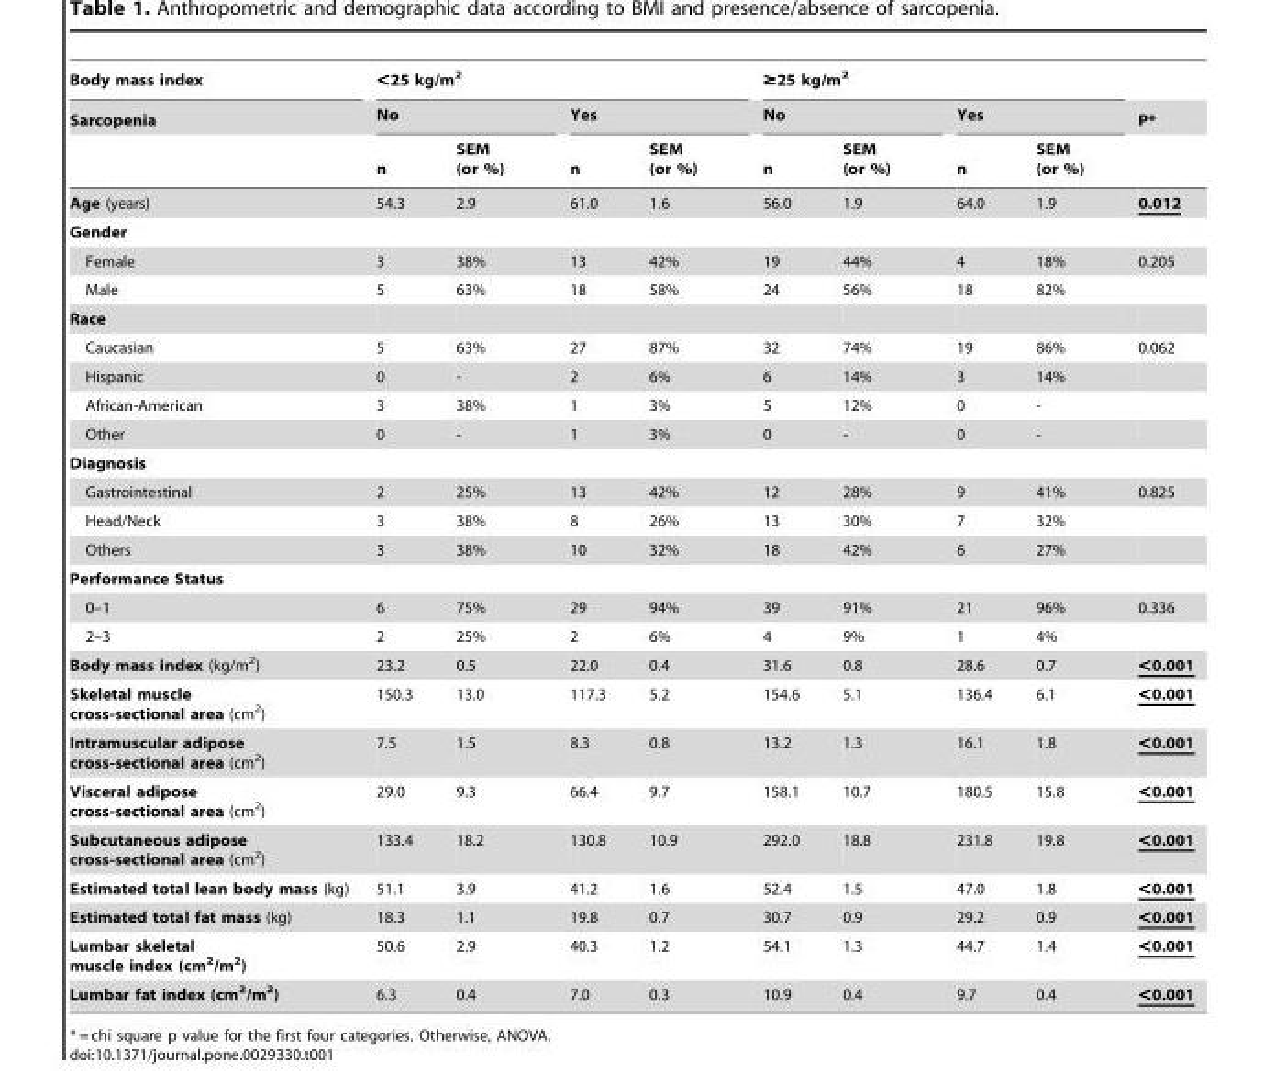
<table><thead><tr><td rowspan="3">Body mass index Sarcopenia</td><td colspan="4">&lt;25 kg/m<sup>2</sup></td><td colspan="4">≥25 kg/m<sup>2</sup></td><td rowspan="3">P*</td></tr><tr><td colspan="2">No</td><td colspan="2">Yes</td><td colspan="2">No</td><td colspan="2">Yes</td></tr><tr><td>n</td><td>SEM (or %)</td><td>n</td><td>SEM (or %)</td><td>n</td><td>SEM (or %)</td><td>n</td><td>SEM (or %)</td></tr></thead><tbody><tr><td>Age (years)</td><td>54.3</td><td>2.9</td><td>61.0</td><td>1.6</td><td>56.0</td><td>1.9</td><td>64.0</td><td>1.9</td><td>0.012</td></tr><tr><td colspan="10">Gender</td></tr><tr><td>Female</td><td>3</td><td>38%</td><td>13</td><td>42%</td><td>19</td><td>44%</td><td>4</td><td>18%</td><td>0.205</td></tr><tr><td>Male</td><td>5</td><td>63%</td><td>18</td><td>58%</td><td>24</td><td>56%</td><td>18</td><td>82%</td><td></td></tr><tr><td colspan="10">Race</td></tr><tr><td>Caucasian</td><td>5</td><td>63%</td><td>27</td><td>87%</td><td>32</td><td>74%</td><td>19</td><td>86%</td><td>0.062</td></tr><tr><td>Hispanic</td><td>0</td><td>-</td><td>2</td><td>6%</td><td>6</td><td>14%</td><td>3</td><td>14%</td><td></td></tr><tr><td>African-American</td><td>3</td><td>38%</td><td>1</td><td>3%</td><td>5</td><td>12%</td><td>0</td><td>-</td><td></td></tr><tr><td>Other</td><td>0</td><td>-</td><td>1</td><td>3%</td><td>0</td><td>-</td><td>0</td><td>-</td><td></td></tr><tr><td colspan="10">Diagnosis</td></tr><tr><td>Gastrointestinal</td><td>2</td><td>25%</td><td>13</td><td>42%</td><td>12</td><td>28%</td><td>9</td><td>41%</td><td>0.825</td></tr><tr><td>Head/Neck</td><td>3</td><td>38%</td><td>8</td><td>26%</td><td>13</td><td>30%</td><td>7</td><td>32%</td><td></td></tr><tr><td>Others</td><td>3</td><td>38%</td><td>10</td><td>32%</td><td>18</td><td>42%</td><td>6</td><td>27%</td><td></td></tr><tr><td colspan="10">Performance Status</td></tr><tr><td>0–1</td><td>6</td><td>75%</td><td>29</td><td>94%</td><td>39</td><td>91%</td><td>21</td><td>96%</td><td>0.336</td></tr><tr><td>2–3</td><td>2</td><td>25%</td><td>2</td><td>6%</td><td>4</td><td>9%</td><td>1</td><td>4%</td><td></td></tr><tr><td>Body mass index (kg/m<sup>2</sup>)</td><td>23.2</td><td>0.5</td><td>22.0</td><td>0.4</td><td>31.6</td><td>0.8</td><td>28.6</td><td>0.7</td><td>&lt;0.001</td></tr><tr><td>Skeletal muscle cross-sectional area (cm<sup>2</sup>)</td><td>150.3</td><td>13.0</td><td>117.3</td><td>5.2</td><td>154.6</td><td>5.1</td><td>136.4</td><td>6.1</td><td>&lt;0.001</td></tr><tr><td>Intramuscular adipose cross-sectional area (cm<sup>2</sup>)</td><td>7.5</td><td>1.5</td><td>8.3</td><td>0.8</td><td>13.2</td><td>1.3</td><td>16.1</td><td>1.8</td><td>&lt;0.001</td></tr><tr><td>Visceral adipose cross-sectional area (cm<sup>2</sup>)</td><td>29.0</td><td>9.3</td><td>66.4</td><td>9.7</td><td>158.1</td><td>10.7</td><td>180.5</td><td>15.8</td><td>&lt;0.001</td></tr><tr><td>Subcutaneous adipose cross-sectional area (cm<sup>2</sup>)</td><td>133.4</td><td>18.2</td><td>130.8</td><td>10.9</td><td>292.0</td><td>18.8</td><td>231.8</td><td>19.8</td><td>&lt;0.001</td></tr><tr><td>Estimated total lean body mass (kg)</td><td>51.1</td><td>3.9</td><td>41.2</td><td>1.6</td><td>52.4</td><td>1.5</td><td>47.0</td><td>1.8</td><td>&lt;0.001</td></tr><tr><td>Estimated total fat mass (kg)</td><td>18.3</td><td>1.1</td><td>19.8</td><td>0.7</td><td>30.7</td><td>0.9</td><td>29.2</td><td>0.9</td><td>&lt;0.001</td></tr><tr><td>Lumbar skeletal muscle index (cm<sup>2</sup>/m<sup>2</sup>)</td><td>50.6</td><td>2.9</td><td>40.3</td><td>1.2</td><td>54.1</td><td>1.3</td><td>44.7</td><td>1.4</td><td>&lt;0.001</td></tr><tr><td>Lumbar fat index (cm<sup>2</sup>/m<sup>2</sup>)</td><td>6.3</td><td>0.4</td><td>7.0</td><td>0.3</td><td>10.9</td><td>0.4</td><td>9.7</td><td>0.4</td><td>&lt;0.001</td></tr></tbody></table>